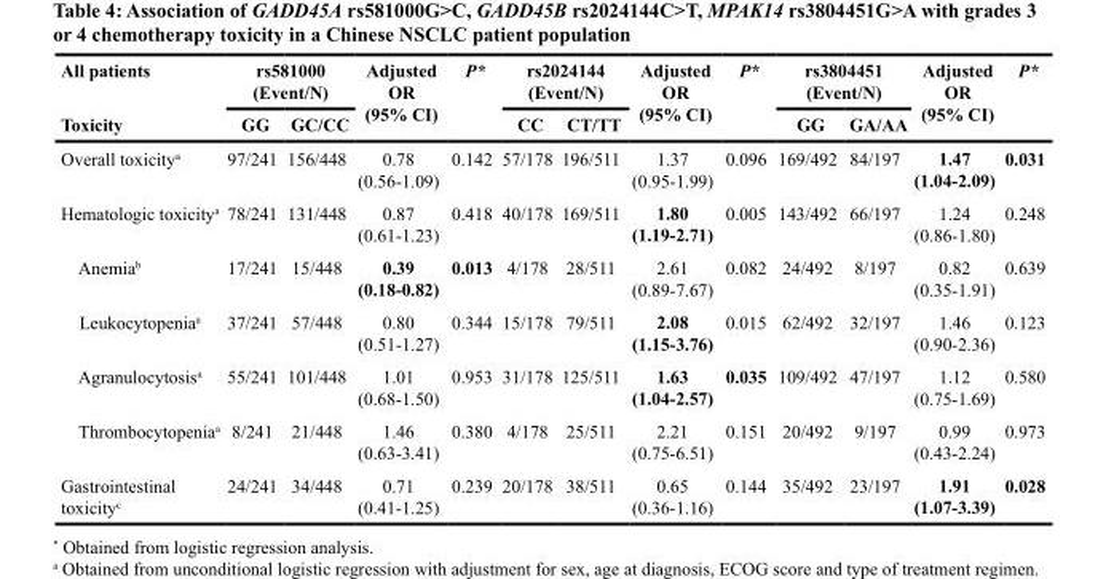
<table><thead><tr><td rowspan="2">All patients Toxicity</td><td colspan="2">rs581000 (Event/N)</td><td rowspan="2">Adjusted OR (95% CI)</td><td rowspan="2">P*</td><td colspan="2">rs2024144 (Event/N)</td><td rowspan="2">Adjusted OR (95% CI)</td><td rowspan="2">P*</td><td colspan="2">rs3804451 (Event/N)</td><td rowspan="2">Adjusted OR (95% CI)</td><td rowspan="2">P*</td></tr><tr><td>GG</td><td>GC/CC</td><td>CC</td><td>CT/TT</td><td>GG</td><td>GA/AA</td></tr></thead><tbody><tr><td>Overall toxicity<sup>a</sup></td><td>97/241</td><td>156/448</td><td>0.78 (0.56-1.09)</td><td>0.142</td><td>57/178</td><td>196/511</td><td>1.37 (0.95-1.99)</td><td>0.096</td><td>169/492</td><td>84/197</td><td>1.47 (1.04-2.09)</td><td>0.031</td></tr><tr><td>Hematologic toxicity<sup>a</sup></td><td>78/241</td><td>131/448</td><td>0.87 (0.61-1.23)</td><td>0.418</td><td>40/178</td><td>169/511</td><td>1.80 (1.19-2.71)</td><td>0.005</td><td>143/492</td><td>66/197</td><td>1.24 (0.86-1.80)</td><td>0.248</td></tr><tr><td>Anemia<sup>b</sup></td><td>17/241</td><td>15/448</td><td>0.39 (0.18-0.82)</td><td>0.013</td><td>4/178</td><td>28/511</td><td>2.61 (0.89-7.67)</td><td>0.082</td><td>24/492</td><td>8/197</td><td>0.82 (0.35-1.91)</td><td>0.639</td></tr><tr><td>Leukocytopenia<sup>a</sup></td><td>37/241</td><td>57/448</td><td>0.80 (0.51-1.27)</td><td>0.344</td><td>15/178</td><td>79/511</td><td>2.08 (1.15-3.76)</td><td>0.015</td><td>62/492</td><td>32/197</td><td>1.46 (0.90-2.36)</td><td>0.123</td></tr><tr><td>Agranulocytosis<sup>a</sup></td><td>55/241</td><td>101/448</td><td>1.01 (0.68-1.50)</td><td>0.953</td><td>31/178</td><td>125/511</td><td>1.63 (1.04-2.57)</td><td>0.035</td><td>109/492</td><td>47/197</td><td>1.12 (0.75-1.69)</td><td>0.580</td></tr><tr><td>Thrombocytopenia<sup>a</sup></td><td>8/241</td><td>21/448</td><td>1.46 (0.63-3.41)</td><td>0.380</td><td>4/178</td><td>25/511</td><td>2.21 (0.75-6.51)</td><td>0.151</td><td>20/492</td><td>9/197</td><td>0.99 (0.43-2.24)</td><td>0.973</td></tr><tr><td>Gastrointestinal toxicity<sup>c</sup></td><td>24/241</td><td>34/448</td><td>0.71 (0.41-1.25)</td><td>0.239</td><td>20/178</td><td>38/511</td><td>0.65 (0.36-1.16)</td><td>0.144</td><td>35/492</td><td>23/197</td><td>1.91 (1.07-3.39)</td><td>0.028</td></tr></tbody></table>